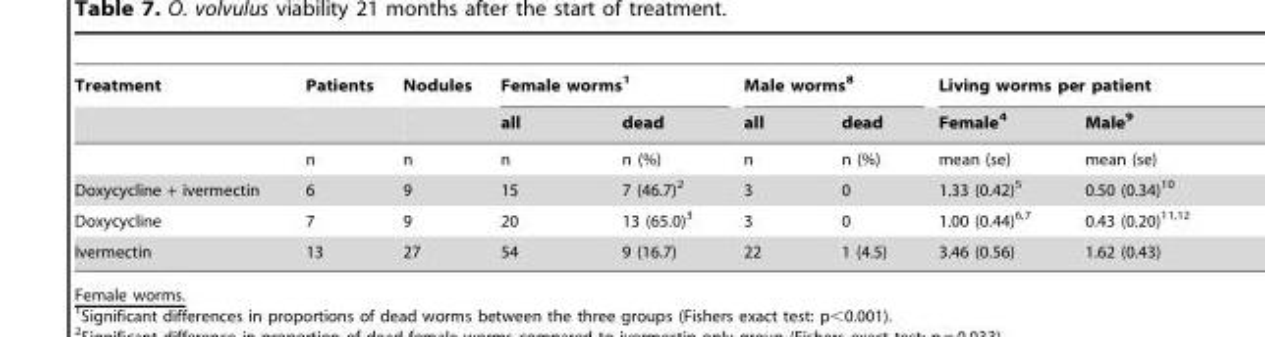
<table><thead><tr><td rowspan="2">Treatment</td><td rowspan="2">Patients</td><td rowspan="2">Nodules</td><td colspan="2">Female worms<sup>1</sup></td><td colspan="2">Male worms<sup>8</sup></td><td colspan="2">Living worms per patient</td></tr><tr><td>all</td><td>dead</td><td>all</td><td>dead</td><td>Female<sup>4</sup></td><td>Male<sup>9</sup></td></tr></thead><tbody><tr><td></td><td>n</td><td>n</td><td>n</td><td>n (%)</td><td>n</td><td>n (%)</td><td>mean (se)</td><td>mean (se)</td></tr><tr><td>Doxycycline + ivermectin</td><td>6</td><td>9</td><td>15</td><td>7 (46.7)<sup>2</sup></td><td>3</td><td>0</td><td>1.33 (0.42)<sup>5</sup></td><td>0.50 (0.34)<sup>10</sup></td></tr><tr><td>Doxycycline</td><td>7</td><td>9</td><td>20</td><td>13 (65.0)<sup>3</sup></td><td>3</td><td>0</td><td>1.00 (0.44)<sup>6,7</sup></td><td>0.43 (0.20)<sup>11,12</sup></td></tr><tr><td>Ivermectin</td><td>13</td><td>27</td><td>54</td><td>9 (16.7)</td><td>22</td><td>1 (4.5)</td><td>3.46 (0.56)</td><td>1.62 (0.43)</td></tr></tbody></table>